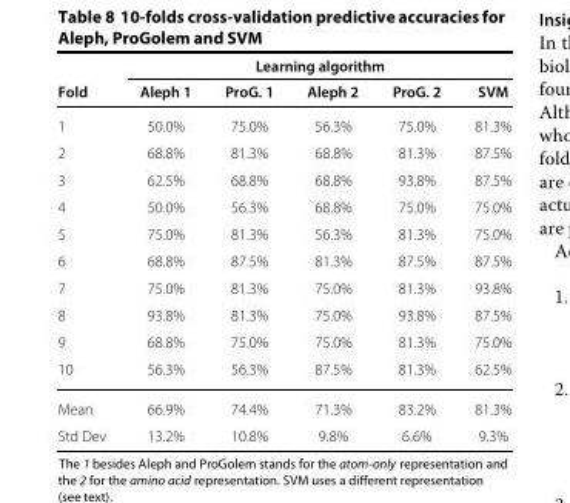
<table><thead><tr><td rowspan="2">Fold</td><td colspan="5">Learning algorithm</td></tr><tr><td>Aleph 1</td><td>ProG. 1</td><td>Aleph 2</td><td>ProG. 2</td><td>SVM</td></tr></thead><tbody><tr><td>1</td><td>50.0%</td><td>75.0%</td><td>56.3%</td><td>75.0%</td><td>81.3%</td></tr><tr><td>2</td><td>68.8%</td><td>81.3%</td><td>68.8%</td><td>81.3%</td><td>87.5%</td></tr><tr><td>3</td><td>62.5%</td><td>68.8%</td><td>68.8%</td><td>93.8%</td><td>87.5%</td></tr><tr><td>4</td><td>50.0%</td><td>56.3%</td><td>68.8%</td><td>75.0%</td><td>75.0%</td></tr><tr><td>5</td><td>75.0%</td><td>81.3%</td><td>56.3%</td><td>81.3%</td><td>75.0%</td></tr><tr><td>6</td><td>68.8%</td><td>87.5%</td><td>81.3%</td><td>87.5%</td><td>87.5%</td></tr><tr><td>7</td><td>75.0%</td><td>81.3%</td><td>75.0%</td><td>81.3%</td><td>93.8%</td></tr><tr><td>8</td><td>93.8%</td><td>81.3%</td><td>75.0%</td><td>93.8%</td><td>87.5%</td></tr><tr><td>9</td><td>68.8%</td><td>75.0%</td><td>75.0%</td><td>81.3%</td><td>75.0%</td></tr><tr><td>10</td><td>56.3%</td><td>56.3%</td><td>87.5%</td><td>81.3%</td><td>62.5%</td></tr><tr><td>Mean</td><td>66.9%</td><td>74.4%</td><td>71.3%</td><td>83.2%</td><td>81.3%</td></tr><tr><td>Std Dev</td><td>13.2%</td><td>10.8%</td><td>9.8%</td><td>6.6%</td><td>9.3%</td></tr></tbody></table>